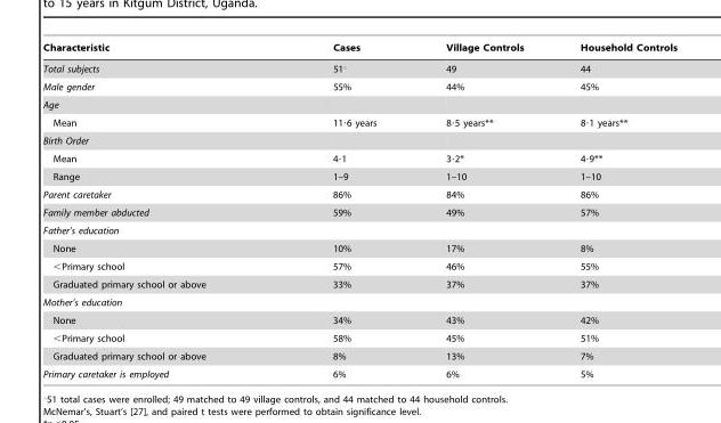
<table><thead><tr><td>Characteristic</td><td>Cases</td><td>Village Controls</td><td>Household Controls</td></tr></thead><tbody><tr><td>Total subjects</td><td>51‘</td><td>49</td><td>44</td></tr><tr><td>Male gender</td><td>55%</td><td>44%</td><td>45%</td></tr><tr><td colspan="4">Age</td></tr><tr><td>Mean</td><td>11·6 years</td><td>8·5 years**</td><td>8·1 years**</td></tr><tr><td colspan="4">Birth Order</td></tr><tr><td>Mean</td><td>4·1</td><td>3·2*</td><td>4·9**</td></tr><tr><td>Range</td><td>1–9</td><td>1–10</td><td>1–10</td></tr><tr><td>Parent caretaker</td><td>86%</td><td>84%</td><td>86%</td></tr><tr><td>Family member abducted</td><td>59%</td><td>49%</td><td>57%</td></tr><tr><td colspan="4">Father’s education</td></tr><tr><td>None</td><td>10%</td><td>17%</td><td>8%</td></tr><tr><td>&lt;Primary school</td><td>57%</td><td>46%</td><td>55%</td></tr><tr><td>Graduated primary school or above</td><td>33%</td><td>37%</td><td>37%</td></tr><tr><td colspan="4">Mother’s education</td></tr><tr><td>None</td><td>34%</td><td>43%</td><td>42%</td></tr><tr><td>&lt;Primary school</td><td>58%</td><td>45%</td><td>51%</td></tr><tr><td>Graduated primary school or above</td><td>8%</td><td>13%</td><td>7%</td></tr><tr><td>Primary caretaker is employed</td><td>6%</td><td>6%</td><td>5%</td></tr></tbody></table>